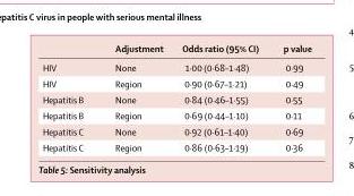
<table><thead><tr><td></td><td>Adjustment</td><td>Odds ratio (95% CI)</td><td>p value</td></tr></thead><tbody><tr><td>HIV</td><td>None</td><td>1·00 (0·68–1·48)</td><td>0·99</td></tr><tr><td>HIV</td><td>Region</td><td>0·90 (0·67–1·21)</td><td>0·49</td></tr><tr><td>Hepatitis B</td><td>None</td><td>0·84 (0·46–1·55)</td><td>0·55</td></tr><tr><td>Hepatitis B</td><td>Region</td><td>0·69 (0·44–1·10)</td><td>0·11</td></tr><tr><td>Hepatitis C</td><td>None</td><td>0·92 (0·61–1·40)</td><td>0·69</td></tr><tr><td>Hepatitis C</td><td>Region</td><td>0·86 (0·63–1·19)</td><td>0·36</td></tr></tbody></table>